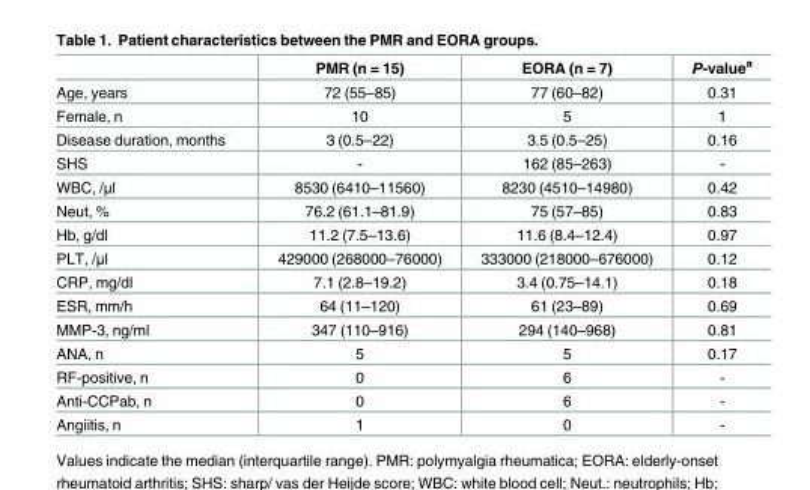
<table><thead><tr><td></td><td>PMR (n = 15)</td><td>EORA (n = 7)</td><td>P-value<sup>a</sup></td></tr></thead><tbody><tr><td>Age, years</td><td>72 (55–85)</td><td>77 (60–82)</td><td>0.31</td></tr><tr><td>Female, n</td><td>10</td><td>5</td><td>1</td></tr><tr><td>Disease duration, months</td><td>3 (0.5–22)</td><td>3.5 (0.5–25)</td><td>0.16</td></tr><tr><td>SHS</td><td>-</td><td>162 (85–263)</td><td>-</td></tr><tr><td>WBC, /μl</td><td>8530 (6410–11560)</td><td>8230 (4510–14980)</td><td>0.42</td></tr><tr><td>Neut, %</td><td>76.2 (61.1–81.9)</td><td>75 (57–85)</td><td>0.83</td></tr><tr><td>Hb, g/dl</td><td>11.2 (7.5–13.6)</td><td>11.6 (8.4–12.4)</td><td>0.97</td></tr><tr><td>PLT, /μl</td><td>429000 (268000–76000)</td><td>333000 (218000–676000)</td><td>0.12</td></tr><tr><td>CRP, mg/dl</td><td>7.1 (2.8–19.2)</td><td>3.4 (0.75–14.1)</td><td>0.18</td></tr><tr><td>ESR, mm/h</td><td>64 (11–120)</td><td>61 (23–89)</td><td>0.69</td></tr><tr><td>MMP-3, ng/ml</td><td>347 (110–916)</td><td>294 (140–968)</td><td>0.81</td></tr><tr><td>ANA, n</td><td>5</td><td>5</td><td>0.17</td></tr><tr><td>RF-positive, n</td><td>0</td><td>6</td><td>-</td></tr><tr><td>Anti-CCPab, n</td><td>0</td><td>6</td><td>-</td></tr><tr><td>Angiitis, n</td><td>1</td><td>0</td><td>-</td></tr></tbody></table>